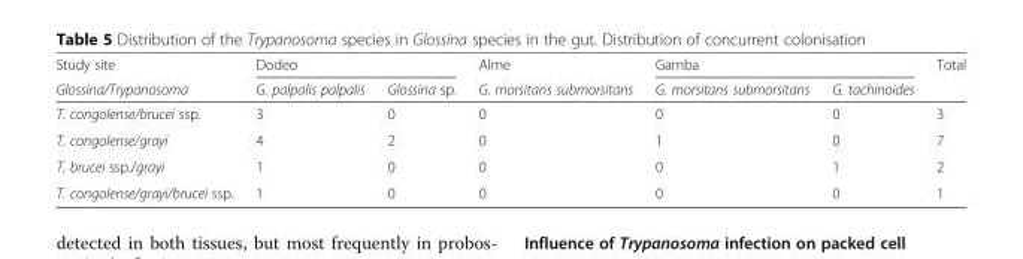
<table><thead><tr><td rowspan="2">Study site Glossina/Trypanosoma</td><td colspan="2">Dodeo</td><td rowspan="2">Alme G. morsitans submorsitans</td><td colspan="2">Gamba</td><td rowspan="2">Total</td></tr><tr><td>G. palpalis palpalis</td><td>Glossina sp.</td><td>G. morsitans submorsitans</td><td>G. tachinoides</td></tr></thead><tbody><tr><td>T. congolense/brucei ssp.</td><td>3</td><td>0</td><td>0</td><td>0</td><td>0</td><td>3</td></tr><tr><td>T. congolense/grayi</td><td>4</td><td>2</td><td>0</td><td>1</td><td>0</td><td>7</td></tr><tr><td>T. brucei ssp./grayi</td><td>1</td><td>0</td><td>0</td><td>0</td><td>1</td><td>2</td></tr><tr><td>T. congolense/grayi/brucei ssp.</td><td>1</td><td>0</td><td>0</td><td>0</td><td>0</td><td>1</td></tr></tbody></table>